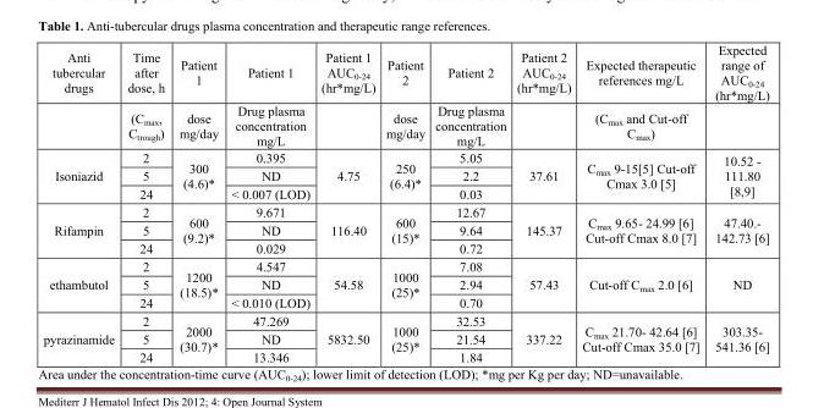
<table><thead><tr><td>Anti tubercular drugs</td><td>Time after dose, h</td><td>Patient 1</td><td>Patient 1</td><td>Patient 1 AUC<sub>0-24</sub> (hr*mg/L)</td><td>Patient 2</td><td>Patient 2</td><td>Patient 2 AUC<sub>0-24</sub> (hr*mg/L)</td><td>Expected therapeutic references mg/L</td><td>Expected range of AUC<sub>0-24</sub> (hr*mg/L)</td></tr></thead><tbody><tr><td></td><td>(C<sub>max</sub>, C<sub>trough</sub>)</td><td>dose mg/day</td><td>Drug plasma concentration mg/L</td><td></td><td>dose mg/day</td><td>Drug plasma concentration mg/L</td><td></td><td>(C<sub>max</sub> and Cut-off C<sub>max</sub>)</td><td></td></tr><tr><td rowspan="3">Isoniazid</td><td>2</td><td rowspan="3">300 (4.6)*</td><td>0.395</td><td rowspan="3">4.75</td><td rowspan="3">250 (6.4)*</td><td>5.05</td><td rowspan="3">37.61</td><td rowspan="3">C<sub>max</sub> 9-15[5] Cut-off Cmax 3.0 [5]</td><td rowspan="3">10.52 - 111.80 [8,9]</td></tr><tr><td>5</td><td>ND</td><td>2.2</td></tr><tr><td>24</td><td>&lt; 0.007 (LOD)</td><td>0.03</td></tr><tr><td rowspan="3">Rifampin</td><td>2</td><td rowspan="3">600 (9.2)*</td><td>9.671</td><td rowspan="3">116.40</td><td rowspan="3">600 (15)*</td><td>12.67</td><td rowspan="3">145.37</td><td rowspan="3">C<sub>max</sub> 9.65- 24.99 [6] Cut-off Cmax 8.0 [7]</td><td rowspan="3">47.40.- 142.73 [6]</td></tr><tr><td>5</td><td>ND</td><td>9.64</td></tr><tr><td>24</td><td>0.029</td><td>0.72</td></tr><tr><td rowspan="3">ethambutol</td><td>2</td><td rowspan="3">1200 (18.5)*</td><td>4.547</td><td rowspan="3">54.58</td><td rowspan="3">1000 (25)*</td><td>7.08</td><td rowspan="3">57.43</td><td rowspan="3">Cut-off C<sub>max</sub> 2.0 [6]</td><td rowspan="3">ND</td></tr><tr><td>5</td><td>ND</td><td>2.94</td></tr><tr><td>24</td><td>&lt; 0.010 (LOD)</td><td>0.70</td></tr><tr><td rowspan="3">pyrazinamide</td><td>2</td><td rowspan="3">2000 (30.7)*</td><td>47.269</td><td rowspan="3">5832.50</td><td rowspan="3">1000 (25)*</td><td>32.53</td><td rowspan="3">337.22</td><td rowspan="3">C<sub>max</sub> 21.70- 42.64 [6] Cut-off Cmax 35.0 [7]</td><td rowspan="3">303.35- 541.36 [6]</td></tr><tr><td>5</td><td>ND</td><td>21.54</td></tr><tr><td>24</td><td>13.346</td><td>1.84</td></tr></tbody></table>